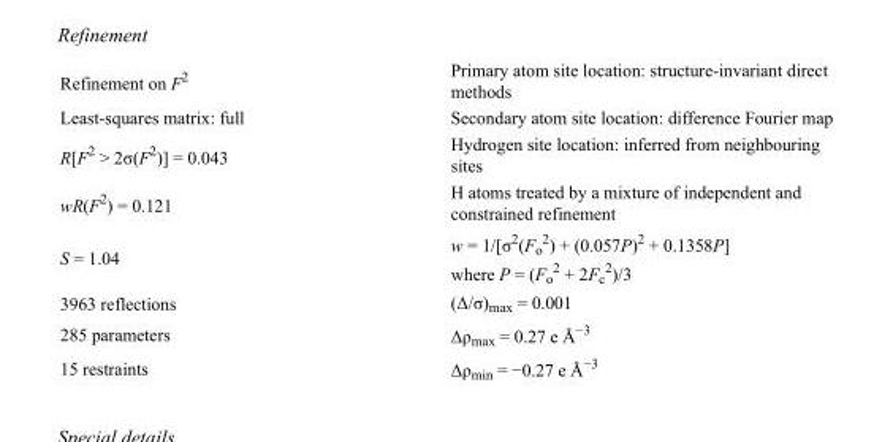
<table><tbody><tr><td>Refinement on F<sup>2</sup></td><td>Primary atom site location: structure-invariant direct methods</td></tr><tr><td>Least-squares matrix: full</td><td>Secondary atom site location: difference Fourier map</td></tr><tr><td>R[F<sup>2</sup> &gt; 2σ(F<sup>2</sup>)] = 0.043</td><td>Hydrogen site location: inferred from neighbouring sites</td></tr><tr><td>wR(F<sup>2</sup>) = 0.121</td><td>H atoms treated by a mixture of independent and constrained refinement</td></tr><tr><td>S = 1.04</td><td>w = 1/[σ<sup>2</sup>(F<sub>o</sub> <sup>2</sup>) + (0.057P)<sup>2</sup> + 0.1358P] where P = (F<sub>o</sub> <sup>2</sup> + 2F<sub>c</sub> <sup>2</sup>)/3</td></tr><tr><td>3963 reflections</td><td>(Δ/σ)<sub>max</sub> = 0.001</td></tr><tr><td>285 parameters</td><td>Δρ<sub>max</sub> = 0.27 e Å<sup>−3</sup></td></tr><tr><td>15 restraints</td><td>Δρ<sub>min</sub> = −0.27 e Å<sup>−3</sup></td></tr></tbody></table>